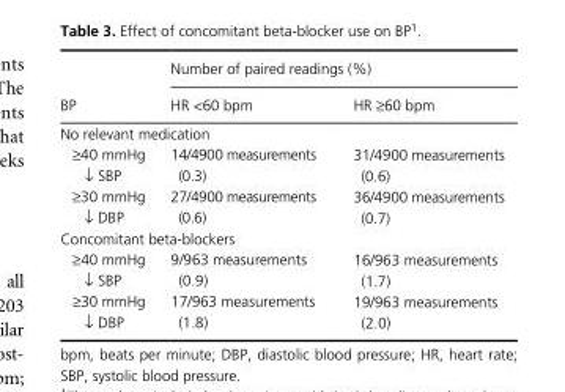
<table><thead><tr><td rowspan="2">BP</td><td colspan="2">Number of paired readings (%)</td></tr><tr><td>HR &lt;60 bpm</td><td>HR ≥60 bpm</td></tr></thead><tbody><tr><td colspan="3">No relevant medication</td></tr><tr><td>≥40 mmHg ↓ SBP</td><td>14/4900 measurements (0.3)</td><td>31/4900 measurements (0.6)</td></tr><tr><td>≥30 mmHg ↓ DBP</td><td>27/4900 measurements (0.6)</td><td>36/4900 measurements (0.7)</td></tr><tr><td colspan="3">Concomitant beta- blockers</td></tr><tr><td>≥40 mmHg ↓ SBP</td><td>9/963 measurements (0.9)</td><td>16/963 measurements (1.7)</td></tr><tr><td>≥30 mmHg ↓ DBP</td><td>17/963 measurements (1.8)</td><td>19/963 measurements (2.0)</td></tr></tbody></table>